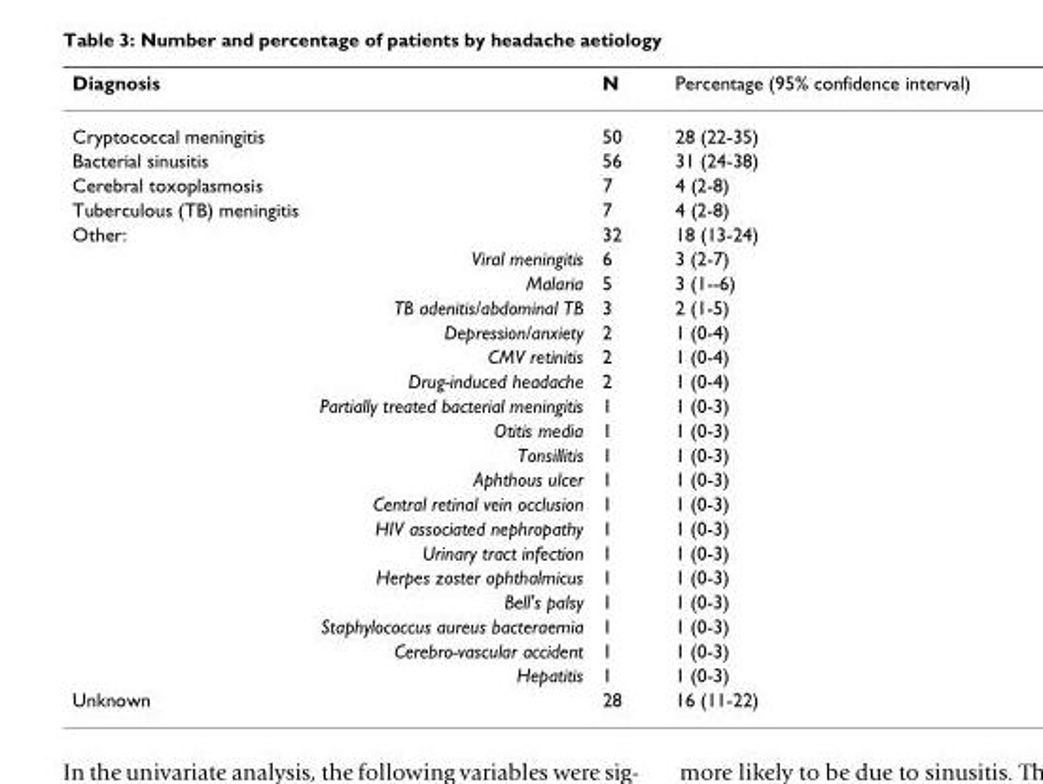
<table><thead><tr><td>Diagnosis</td><td>N</td><td>Percentage (95% confidence interval)</td></tr></thead><tbody><tr><td>Cryptococcal meningitis</td><td>50</td><td>28 (22-35)</td></tr><tr><td>Bacterial sinusitis</td><td>56</td><td>31 (24-38)</td></tr><tr><td>Cerebral toxoplasmosis</td><td>7</td><td>4 (2-8)</td></tr><tr><td>Tuberculous (TB) meningitis</td><td>7</td><td>4 (2-8)</td></tr><tr><td>Other:</td><td>32</td><td>18 (13-24)</td></tr><tr><td>Viral meningitis</td><td>6</td><td>3 (2-7)</td></tr><tr><td>Malaria</td><td>5</td><td>3 (1--6)</td></tr><tr><td>TB adenitis/abdominal TB</td><td>3</td><td>2 (1-5)</td></tr><tr><td>Depression/anxiety</td><td>2</td><td>1 (0-4)</td></tr><tr><td>CMV retinitis</td><td>2</td><td>1 (0-4)</td></tr><tr><td>Drug-induced headache</td><td>2</td><td>1 (0-4)</td></tr><tr><td>Partially treated bacterial meningitis</td><td>1</td><td>1 (0-3)</td></tr><tr><td>Otitis media</td><td>1</td><td>1 (0-3)</td></tr><tr><td>Tonsillitis</td><td>1</td><td>1 (0-3)</td></tr><tr><td>Aphthous ulcer</td><td>1</td><td>1 (0-3)</td></tr><tr><td>Central retinal vein occlusion</td><td>1</td><td>1 (0-3)</td></tr><tr><td>HIV associated nephropathy</td><td>1</td><td>1 (0-3)</td></tr><tr><td>Urinary tract infection</td><td>1</td><td>1 (0-3)</td></tr><tr><td>Herpes zoster ophthalmicus</td><td>1</td><td>1 (0-3)</td></tr><tr><td>Bell&#x27;s palsy</td><td>1</td><td>1 (0-3)</td></tr><tr><td>Staphylococcus aureus bacteraemia</td><td>1</td><td>1 (0-3)</td></tr><tr><td>Cerebro-vascular accident</td><td>1</td><td>1 (0-3)</td></tr><tr><td>Hepatitis</td><td>1</td><td>1 (0-3)</td></tr><tr><td>Unknown</td><td>28</td><td>16 (11-22)</td></tr></tbody></table>